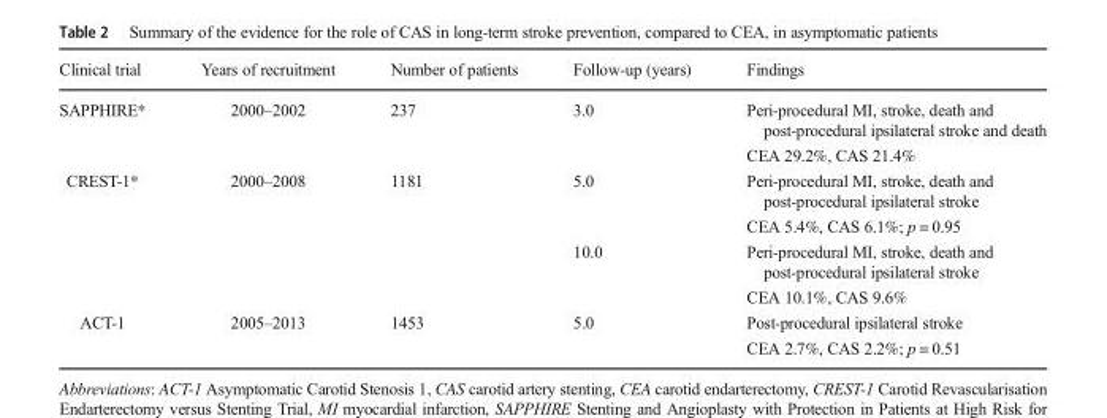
<table><thead><tr><td>Clinical trial</td><td>Years of recruitment</td><td>Number of patients</td><td>Follow-up (years)</td><td>Findings</td></tr></thead><tbody><tr><td rowspan="2">SAPPHIRE*</td><td rowspan="2">2000–2002</td><td rowspan="2">237</td><td rowspan="2">3.0</td><td>Peri-procedural MI, stroke, death and post-procedural ipsilateral stroke and death</td></tr><tr><td>CEA 29.2%, CAS 21.4%</td></tr><tr><td rowspan="4">CREST-1*</td><td rowspan="4">2000–2008</td><td rowspan="4">1181</td><td rowspan="2">5.0</td><td>Peri-procedural MI, stroke, death and post-procedural ipsilateral stroke</td></tr><tr><td>CEA 5.4%, CAS 6.1%; p = 0.95</td></tr><tr><td rowspan="2">10.0</td><td>Peri-procedural MI, stroke, death and post-procedural ipsilateral stroke</td></tr><tr><td>CEA 10.1%, CAS 9.6%</td></tr><tr><td rowspan="2">ACT-1</td><td rowspan="2">2005–2013</td><td rowspan="2">1453</td><td rowspan="2">5.0</td><td>Post-procedural ipsilateral stroke</td></tr><tr><td>CEA 2.7%, CAS 2.2%; p = 0.51</td></tr></tbody></table>